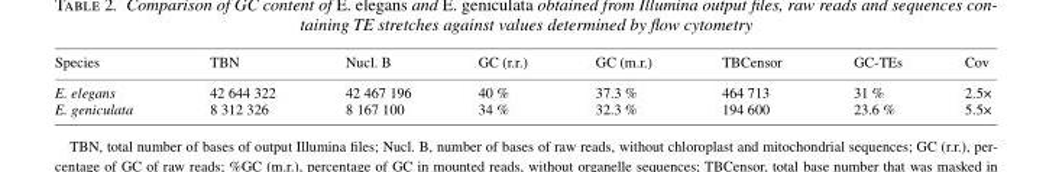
<table><thead><tr><td>Species</td><td>TBN</td><td>Nucl. B</td><td>GC (r.r.)</td><td>GC (m.r.)</td><td>TBCensor</td><td>GC-TEs</td><td>Cov</td></tr></thead><tbody><tr><td>E. elegans</td><td>42 644 322</td><td>42 467 196</td><td>40 %</td><td>37.3 %</td><td>464 713</td><td>31 %</td><td>2.5×</td></tr><tr><td>E. geniculata</td><td>8 312 326</td><td>8 167 100</td><td>34 %</td><td>32.3 %</td><td>194 600</td><td>23.6 %</td><td>5.5×</td></tr></tbody></table>